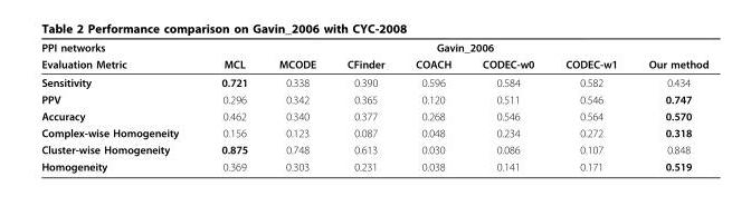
<table><thead><tr><td rowspan="2">PPI networks Evaluation Metric</td><td colspan="7">Gavin_2006</td></tr><tr><td>MCL</td><td>MCODE</td><td>CFinder</td><td>COACH</td><td>CODEC-w0</td><td>CODEC-w1</td><td>Our method</td></tr></thead><tbody><tr><td>Sensitivity</td><td>0.721</td><td>0.338</td><td>0.390</td><td>0.596</td><td>0.584</td><td>0.582</td><td>0.434</td></tr><tr><td>PPV</td><td>0.296</td><td>0.342</td><td>0.365</td><td>0.120</td><td>0.511</td><td>0.546</td><td>0.747</td></tr><tr><td>Accuracy</td><td>0.462</td><td>0.340</td><td>0.377</td><td>0.268</td><td>0.546</td><td>0.564</td><td>0.570</td></tr><tr><td>Complex-wise Homogeneity</td><td>0.156</td><td>0.123</td><td>0.087</td><td>0.048</td><td>0.234</td><td>0.272</td><td>0.318</td></tr><tr><td>Cluster-wise Homogeneity</td><td>0.875</td><td>0.748</td><td>0.613</td><td>0.030</td><td>0.086</td><td>0.107</td><td>0.848</td></tr><tr><td>Homogeneity</td><td>0.369</td><td>0.303</td><td>0.231</td><td>0.038</td><td>0.141</td><td>0.171</td><td>0.519</td></tr></tbody></table>